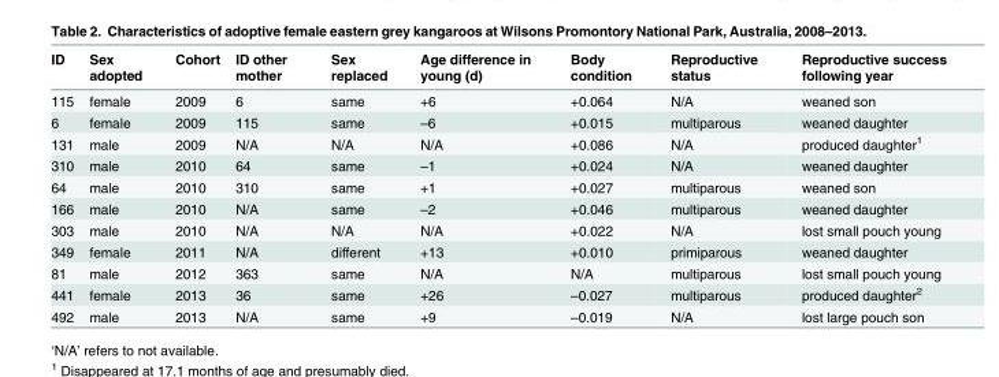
<table><thead><tr><td>ID</td><td>Sex adopted</td><td>Cohort</td><td>ID other mother</td><td>Sex replaced</td><td>Age difference in young (d)</td><td>Body condition</td><td>Reproductive status</td><td>Reproductive success following year</td></tr></thead><tbody><tr><td>115</td><td>female</td><td>2009</td><td>6</td><td>same</td><td>+6</td><td>+0.064</td><td>N/A</td><td>weaned son</td></tr><tr><td>6</td><td>female</td><td>2009</td><td>115</td><td>same</td><td>–6</td><td>+0.015</td><td>multiparous</td><td>weaned daughter</td></tr><tr><td>131</td><td>male</td><td>2009</td><td>N/A</td><td>N/A</td><td>N/A</td><td>+0.086</td><td>N/A</td><td>produced daughter<sup>1</sup></td></tr><tr><td>310</td><td>male</td><td>2010</td><td>64</td><td>same</td><td>–1</td><td>+0.024</td><td>N/A</td><td>weaned daughter</td></tr><tr><td>64</td><td>male</td><td>2010</td><td>310</td><td>same</td><td>+1</td><td>+0.027</td><td>multiparous</td><td>weaned son</td></tr><tr><td>166</td><td>male</td><td>2010</td><td>N/A</td><td>same</td><td>–2</td><td>+0.046</td><td>multiparous</td><td>weaned daughter</td></tr><tr><td>303</td><td>male</td><td>2010</td><td>N/A</td><td>N/A</td><td>N/A</td><td>+0.022</td><td>N/A</td><td>lost small pouch young</td></tr><tr><td>349</td><td>female</td><td>2011</td><td>N/A</td><td>different</td><td>+13</td><td>+0.010</td><td>primiparous</td><td>weaned daughter</td></tr><tr><td>81</td><td>male</td><td>2012</td><td>363</td><td>same</td><td>N/A</td><td>N/A</td><td>multiparous</td><td>lost small pouch young</td></tr><tr><td>441</td><td>female</td><td>2013</td><td>36</td><td>same</td><td>+26</td><td>–0.027</td><td>multiparous</td><td>produced daughter<sup>2</sup></td></tr><tr><td>492</td><td>male</td><td>2013</td><td>N/A</td><td>same</td><td>+9</td><td>–0.019</td><td>N/A</td><td>lost large pouch son</td></tr></tbody></table>